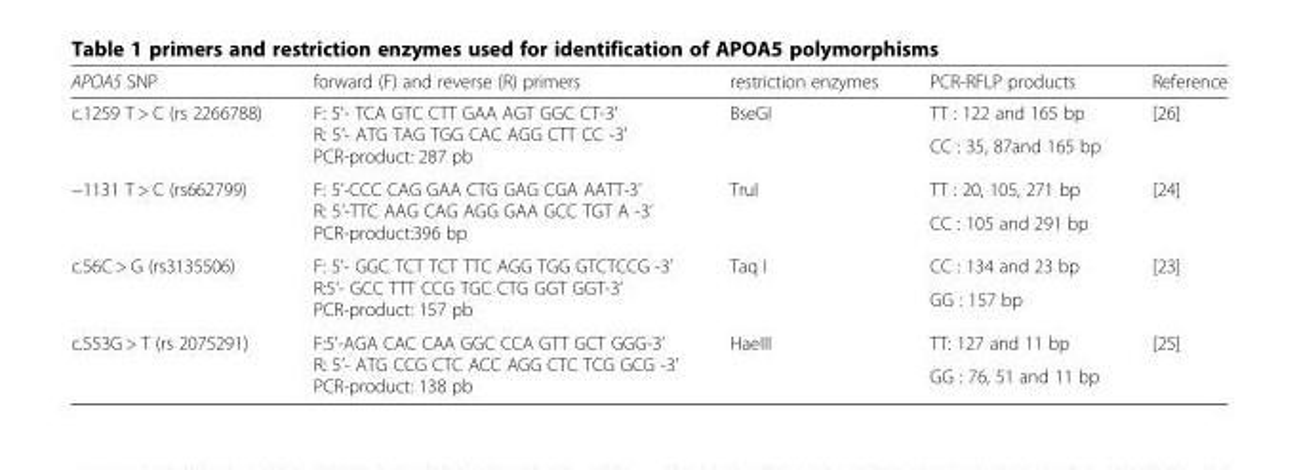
<table><thead><tr><td>APOA5 SNP</td><td>forward (F) and reverse (R) primers</td><td>restriction enzymes</td><td>PCR-RFLP products</td><td>Reference</td></tr></thead><tbody><tr><td rowspan="2">c.1259 T &gt; C (rs 2266788)</td><td rowspan="2">F: 5’- TCA GTC CTT GAA AGT GGC CT-3’ R: 5’- ATG TAG TGG CAC AGG CTT CC -3’ PCR-product: 287 pb</td><td rowspan="2">BseGI</td><td>TT : 122 and 165 bp</td><td rowspan="2">[26]</td></tr><tr><td>CC : 35, 87and 165 bp</td></tr><tr><td rowspan="2">−1131 T &gt; C (rs662799)</td><td rowspan="2">F: 5’-CCC CAG GAA CTG GAG CGA AATT-3’ R: 5’-TTC AAG CAG AGG GAA GCC TGT A -3’ PCR-product:396 bp</td><td rowspan="2">TruI</td><td>TT : 20, 105, 271 bp</td><td rowspan="2">[24]</td></tr><tr><td>CC : 105 and 291 bp</td></tr><tr><td rowspan="2">c.56C &gt; G (rs3135506)</td><td rowspan="2">F: 5’- GGC TCT TCT TTC AGG TGG GTCTCCG -3’ R:5’- GCC TTT CCG TGC CTG GGT GGT-3’ PCR-product: 157 pb</td><td rowspan="2">Taq I</td><td>CC : 134 and 23 bp</td><td rowspan="2">[23]</td></tr><tr><td>GG : 157 bp</td></tr><tr><td rowspan="2">c.553G &gt; T (rs 2075291)</td><td rowspan="2">F:5’-AGA CAC CAA GGC CCA GTT GCT GGG-3’ R: 5’- ATG CCG CTC ACC AGG CTC TCG GCG -3’ PCR-product: 138 pb</td><td rowspan="2">HaeIII</td><td>TT: 127 and 11 bp</td><td rowspan="2">[25]</td></tr><tr><td>GG : 76, 51 and 11 bp</td></tr></tbody></table>